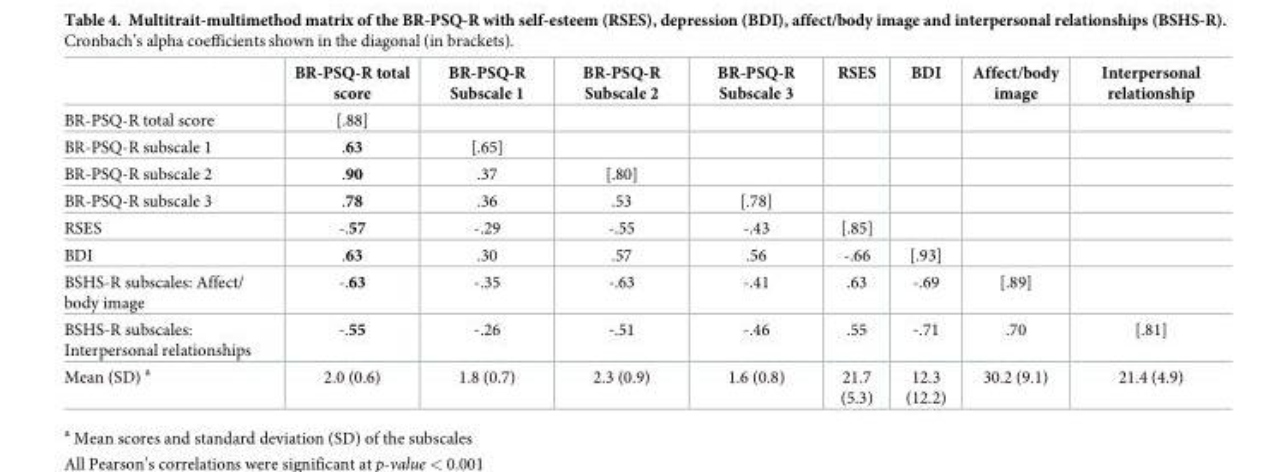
<table><thead><tr><td></td><td>BR-PSQ-R total score</td><td>BR-PSQ-R Subscale 1</td><td>BR-PSQ-R Subscale 2</td><td>BR-PSQ-R Subscale 3</td><td>RSES</td><td>BDI</td><td>Affect/body image</td><td>Interpersonal relationship</td></tr></thead><tbody><tr><td>BR-PSQ-R total score</td><td>[.88]</td><td></td><td></td><td></td><td></td><td></td><td></td><td></td></tr><tr><td>BR-PSQ-R subscale 1</td><td>.63</td><td>[.65]</td><td></td><td></td><td></td><td></td><td></td><td></td></tr><tr><td>BR-PSQ-R subscale 2</td><td>.90</td><td>.37</td><td>[.80]</td><td></td><td></td><td></td><td></td><td></td></tr><tr><td>BR-PSQ-R subscale 3</td><td>.78</td><td>.36</td><td>.53</td><td>[.78]</td><td></td><td></td><td></td><td></td></tr><tr><td>RSES</td><td>-.57</td><td>-.29</td><td>-.55</td><td>-.43</td><td>[.85]</td><td></td><td></td><td></td></tr><tr><td>BDI</td><td>.63</td><td>.30</td><td>.57</td><td>.56</td><td>-.66</td><td>[.93]</td><td></td><td></td></tr><tr><td>BSHS-R subscales: Affect/ body image</td><td>-.63</td><td>-.35</td><td>-.63</td><td>-.41</td><td>.63</td><td>-.69</td><td>[.89]</td><td></td></tr><tr><td>BSHS-R subscales: Interpersonal relationships</td><td>-.55</td><td>-.26</td><td>-.51</td><td>-.46</td><td>.55</td><td>-.71</td><td>.70</td><td>[.81]</td></tr><tr><td>Mean (SD) <sup>a</sup></td><td>2.0 (0.6)</td><td>1.8 (0.7)</td><td>2.3 (0.9)</td><td>1.6 (0.8)</td><td>21.7 (5.3)</td><td>12.3 (12.2)</td><td>30.2 (9.1)</td><td>21.4 (4.9)</td></tr></tbody></table>